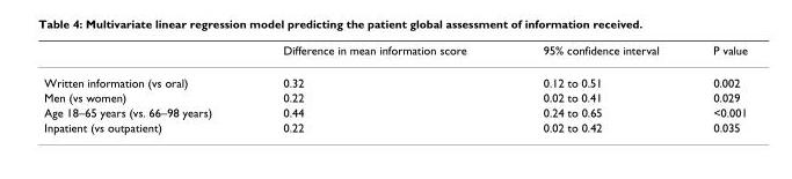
<table><thead><tr><td></td><td>Difference in mean information score</td><td>95% confidence interval</td><td>P value</td></tr></thead><tbody><tr><td>Written information (vs oral)</td><td>0.32</td><td>0.12 to 0.51</td><td>0.002</td></tr><tr><td>Men (vs women)</td><td>0.22</td><td>0.02 to 0.41</td><td>0.029</td></tr><tr><td>Age 18–65 years (vs. 66–98 years)</td><td>0.44</td><td>0.24 to 0.65</td><td>&lt;0.001</td></tr><tr><td>Inpatient (vs outpatient)</td><td>0.22</td><td>0.02 to 0.42</td><td>0.035</td></tr></tbody></table>